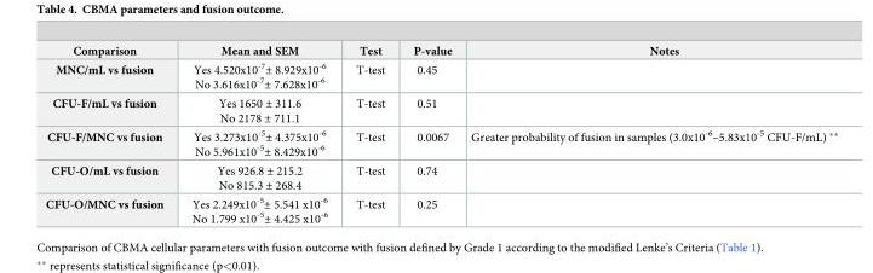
<table><thead><tr><td>Comparison</td><td>Mean and SEM</td><td>Test</td><td>P-value</td><td>Notes</td></tr></thead><tbody><tr><td>MNC/mL vs fusion</td><td>Yes 4.520x10<sup>-7</sup>± 8.929x10<sup>-6</sup> No 3.616x10<sup>-7</sup>± 7.628x10<sup>-6</sup></td><td>T-test</td><td>0.45</td><td></td></tr><tr><td>CFU-F/mL vs fusion</td><td>Yes 1650 ± 311.6 No 2178 ± 711.1</td><td>T-test</td><td>0.51</td><td></td></tr><tr><td>CFU-F/MNC vs fusion</td><td>Yes 3.273x10<sup>-5</sup>± 4.375x10<sup>-6</sup> No 5.961x10<sup>-5</sup>± 8.429x10<sup>-6</sup></td><td>T-test</td><td>0.0067</td><td>Greater probability of fusion in samples (3.0x10-6–5.83x10-5 CFU-F/mL)</td></tr><tr><td>CFU-O/mL vs fusion</td><td>Yes 926.8 ± 215.2 No 815.3 ± 268.4</td><td>T-test</td><td>0.74</td><td></td></tr><tr><td>CFU-O/MNC vs fusion</td><td>Yes 2.249x10<sup>-5</sup>± 5.541 x10<sup>-6</sup> No 1.799 x10<sup>-5</sup>± 4.425 x10<sup>-6</sup></td><td>T-test</td><td>0.25</td><td></td></tr></tbody></table>